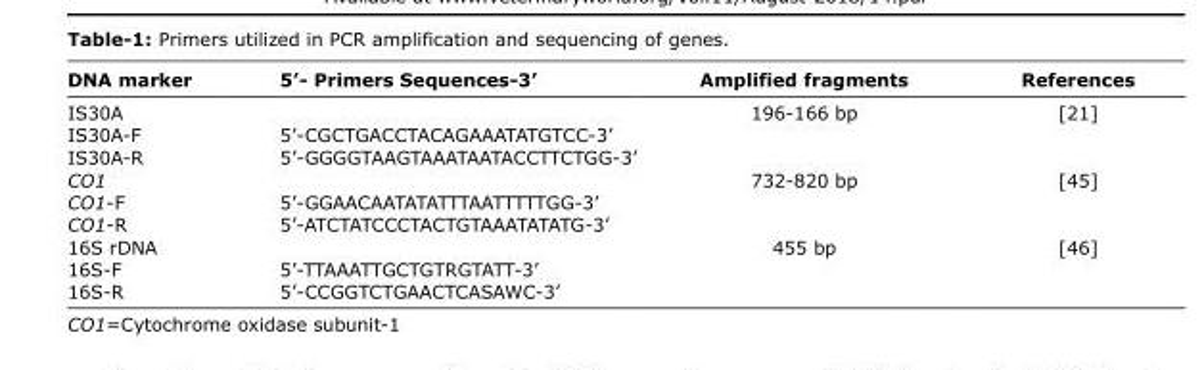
<table><thead><tr><td>DNA marker</td><td>5’- Primers Sequences-3’</td><td>Amplified fragments</td><td>References</td></tr></thead><tbody><tr><td>IS30A IS30A-F IS30A-R</td><td>5’-CGCTGACCTACAGAAATATGTCC-3’ 5’-GGGGTAAGTAAATAATACCTTCTGG-3’</td><td>196-166 bp</td><td>[21]</td></tr><tr><td>CO1 CO1-F CO1-R</td><td>5’-GGAACAATATATTTAATTTTTGG-3’ 5’-ATCTATCCCTACTGTAAATATATG-3’</td><td>732-820 bp</td><td>[45]</td></tr><tr><td>16S rDNA 16S-F 16S-R</td><td>5’-TTAAATTGCTGTRGTATT-3’ 5’-CCGGTCTGAACTCASAWC-3’</td><td>455 bp</td><td>[46]</td></tr></tbody></table>